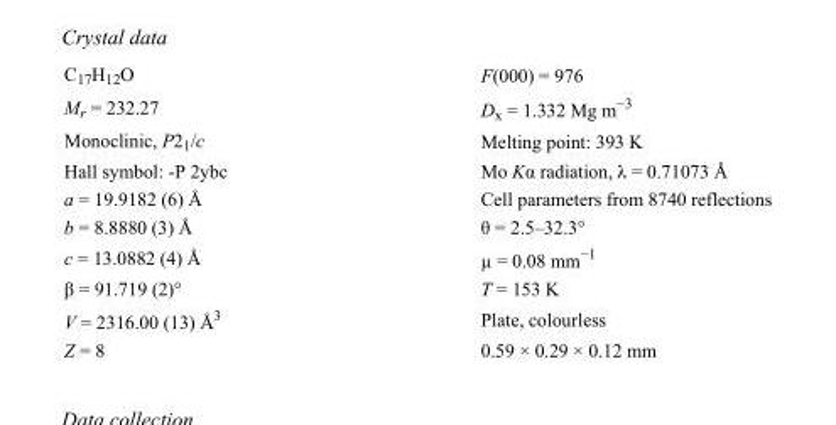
<table><tbody><tr><td>C<sub>17</sub>H<sub>12</sub>O</td><td>F(000) = 976</td></tr><tr><td>M<sub>r</sub> = 232.27</td><td>D<sub>x</sub> = 1.332 Mg m<sup>−3</sup></td></tr><tr><td>Monoclinic, P2<sub>1</sub>/c</td><td>Melting point: 393 K</td></tr><tr><td>Hall symbol: -P 2ybc</td><td>Mo Kα radiation, λ = 0.71073 Å</td></tr><tr><td>a = 19.9182 (6) Å</td><td>Cell parameters from 8740 reflections</td></tr><tr><td>b = 8.8880 (3) Å</td><td>θ = 2.5–32.3°</td></tr><tr><td>c = 13.0882 (4) Å</td><td>µ = 0.08 mm<sup>−1</sup></td></tr><tr><td>β = 91.719 (2)°</td><td>T = 153 K</td></tr><tr><td>V = 2316.00 (13) Å<sup>3</sup></td><td>Plate, colourless</td></tr><tr><td>Z = 8</td><td>0.59 × 0.29 × 0.12 mm</td></tr></tbody></table>